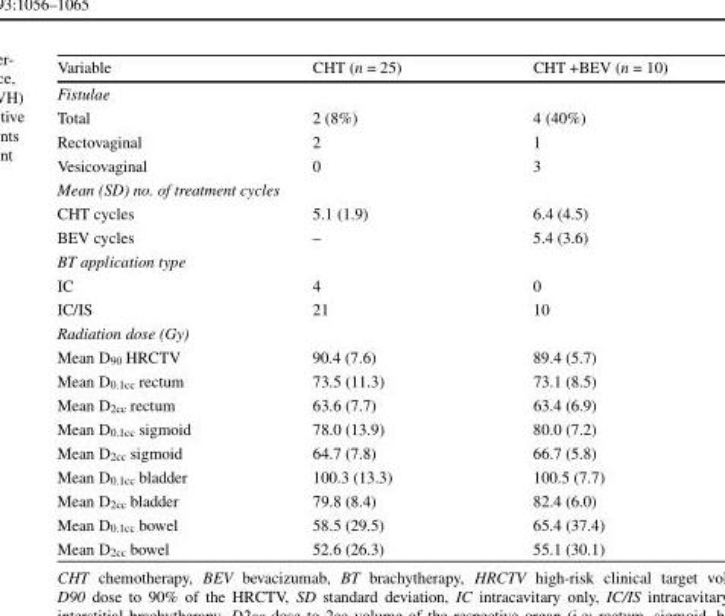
<table><thead><tr><td>Variable</td><td>CHT (n = 25)</td><td>CHT +BEV (n = 10)</td></tr></thead><tbody><tr><td colspan="3">Fistulae</td></tr><tr><td>Total</td><td>2 (8%)</td><td>4 (40%)</td></tr><tr><td>Rectovaginal</td><td>2</td><td>1</td></tr><tr><td>Vesicovaginal</td><td>0</td><td>3</td></tr><tr><td colspan="3">Mean (SD) no. of treatment cycles</td></tr><tr><td>CHT cycles</td><td>5.1 (1.9)</td><td>6.4 (4.5)</td></tr><tr><td>BEV cycles</td><td>–</td><td>5.4 (3.6)</td></tr><tr><td colspan="3">BT application type</td></tr><tr><td>IC</td><td>4</td><td>0</td></tr><tr><td>IC/IS</td><td>21</td><td>10</td></tr><tr><td colspan="3">Radiation dose (Gy)</td></tr><tr><td>Mean D<sub>90</sub> HRCTV</td><td>90.4 (7.6)</td><td>89.4 (5.7)</td></tr><tr><td>Mean D<sub>0.1cc</sub> rectum</td><td>73.5 (11.3)</td><td>73.1 (8.5)</td></tr><tr><td>Mean D<sub>2cc</sub> rectum</td><td>63.6 (7.7)</td><td>63.4 (6.9)</td></tr><tr><td>Mean D<sub>0.1cc</sub> sigmoid</td><td>78.0 (13.9)</td><td>80.0 (7.2)</td></tr><tr><td>Mean D<sub>2cc</sub> sigmoid</td><td>64.7 (7.8)</td><td>66.7 (5.8)</td></tr><tr><td>Mean D<sub>0.1cc</sub> bladder</td><td>100.3 (13.3)</td><td>100.5 (7.7)</td></tr><tr><td>Mean D<sub>2cc</sub> bladder</td><td>79.8 (8.4)</td><td>82.4 (6.0)</td></tr><tr><td>Mean D<sub>0.1cc</sub> bowel</td><td>58.5 (29.5)</td><td>65.4 (37.4)</td></tr><tr><td>Mean D<sub>2cc</sub> bowel</td><td>52.6 (26.3)</td><td>55.1 (30.1)</td></tr></tbody></table>